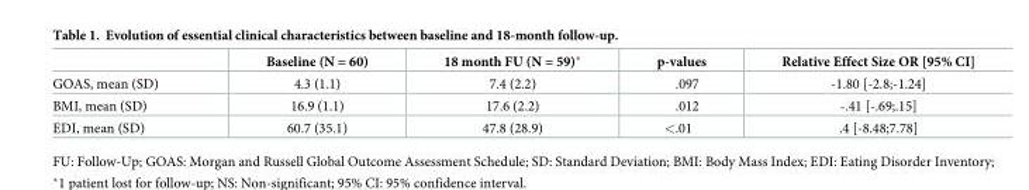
<table><thead><tr><td></td><td>Baseline (N = 60)</td><td>18 month FU (N = 59)*</td><td>p-values</td><td>Relative Effect Size OR [95% CI]</td></tr></thead><tbody><tr><td>GOAS, mean (SD)</td><td>4.3 (1.1)</td><td>7.4 (2.2)</td><td>.097</td><td>-1.80 [-2.8;-1.24]</td></tr><tr><td>BMI, mean (SD)</td><td>16.9 (1.1)</td><td>17.6 (2.2)</td><td>.012</td><td>-.41 [-.69;.15]</td></tr><tr><td>EDI, mean (SD)</td><td>60.7 (35.1)</td><td>47.8 (28.9)</td><td>&lt;.01</td><td>.4 [-8.48;7.78]</td></tr></tbody></table>